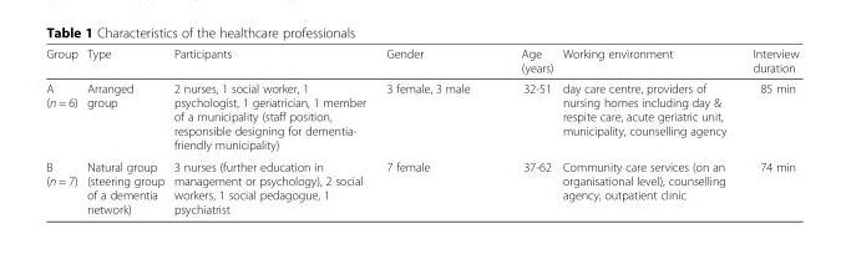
<table><thead><tr><td>Group</td><td>Type</td><td>Participants</td><td>Gender</td><td>Age (years)</td><td>Working environment</td><td>Interview duration</td></tr></thead><tbody><tr><td>A (n = 6)</td><td>Arranged group</td><td>2 nurses, 1 social worker, 1 psychologist, 1 geriatrician, 1 member of a municipality (staff position, responsible designing for dementia- friendly municipality)</td><td>3 female, 3 male</td><td>32-51</td><td>day care centre, providers of nursing homes including day &amp; respite care, acute geriatric unit, municipality, counselling agency</td><td>85 min</td></tr><tr><td>B (n = 7)</td><td>Natural group (steering group of a dementia network)</td><td>3 nurses (further education in management or psychology), 2 social workers, 1 social pedagogue, 1 psychiatrist</td><td>7 female</td><td>37-62</td><td>Community care services (on an organisational level), counselling agency, outpatient clinic</td><td>74 min</td></tr></tbody></table>